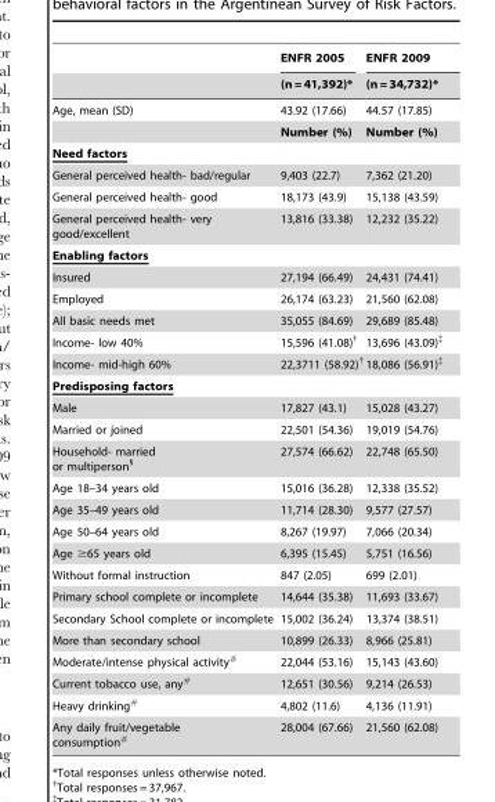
<table><thead><tr><td rowspan="2"></td><td rowspan="2">ENFR 2005 (n = 41,392)*</td><td rowspan="2">ENFR 2009 (n = 34,732)*</td></tr><tr></tr></thead><tbody><tr><td rowspan="2">Age, mean (SD)</td><td>43.92 (17.66)</td><td>44.57 (17.85)</td></tr><tr><td>Number (%)</td><td>Number (%)</td></tr><tr><td colspan="3">Need factors</td></tr><tr><td>General perceived health- bad/regular</td><td>9,403 (22.7)</td><td>7,362 (21.20)</td></tr><tr><td>General perceived health- good</td><td>18,173 (43.9)</td><td>15,138 (43.59)</td></tr><tr><td>General perceived health- very good/excellent</td><td>13,816 (33.38)</td><td>12,232 (35.22)</td></tr><tr><td colspan="3">Enabling factors</td></tr><tr><td>Insured</td><td>27,194 (66.49)</td><td>24,431 (74.41)</td></tr><tr><td>Employed</td><td>26,174 (63.23)</td><td>21,560 (62.08)</td></tr><tr><td>All basic needs met</td><td>35,055 (84.69)</td><td>29,689 (85.48)</td></tr><tr><td>Income- low 40%</td><td>15,596 (41.08)†</td><td>13,696 (43.09)‡</td></tr><tr><td>Income- mid-high 60%</td><td>22,3711 (58.92)†</td><td>18,086 (56.91)‡</td></tr><tr><td colspan="3">Predisposing factors</td></tr><tr><td>Male</td><td>17,827 (43.1)</td><td>15,028 (43.27)</td></tr><tr><td>Married or joined</td><td>22,501 (54.36)</td><td>19,019 (54.76)</td></tr><tr><td>Household- married or multiperson§</td><td>27,574 (66.62)</td><td>22,748 (65.50)</td></tr><tr><td>Age 18–34 years old</td><td>15,016 (36.28)</td><td>12,338 (35.52)</td></tr><tr><td>Age 35–49 years old</td><td>11,714 (28.30)</td><td>9,577 (27.57)</td></tr><tr><td>Age 50–64 years old</td><td>8,267 (19.97)</td><td>7,066 (20.34)</td></tr><tr><td>Age ≥65 years old</td><td>6,395 (15.45)</td><td>5,751 (16.56)</td></tr><tr><td>Without formal instruction</td><td>847 (2.05)</td><td>699 (2.01)</td></tr><tr><td>Primary school complete or incomplete</td><td>14,644 (35.38)</td><td>11,693 (33.67)</td></tr><tr><td>Secondary School complete or incomplete</td><td>15,002 (36.24)</td><td>13,374 (38.51)</td></tr><tr><td>More than secondary school</td><td>10,899 (26.33)</td><td>8,966 (25.81)</td></tr><tr><td>Moderate/intense physical activity#</td><td>22,044 (53.16)</td><td>15,143 (43.60)</td></tr><tr><td>Current tobacco use, any#</td><td>12,651 (30.56)</td><td>9,214 (26.53)</td></tr><tr><td>Heavy drinking#</td><td>4,802 (11.6)</td><td>4,136 (11.91)</td></tr><tr><td>Any daily fruit/vegetable consumption#</td><td>28,004 (67.66)</td><td>21,560 (62.08)</td></tr></tbody></table>